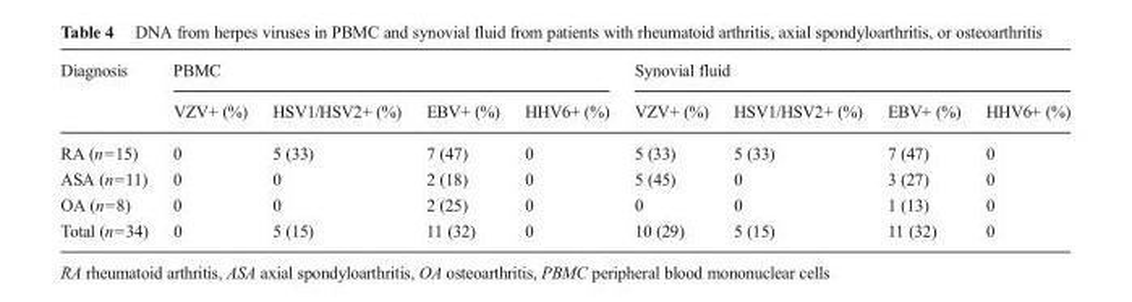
<table><thead><tr><td rowspan="2">Diagnosis</td><td colspan="4">PBMC</td><td colspan="4">Synovial fluid</td></tr><tr><td>VZV+ (%)</td><td>HSV1/HSV2+ (%)</td><td>EBV+ (%)</td><td>HHV6+ (%)</td><td>VZV+ (%)</td><td>HSV1/HSV2+ (%)</td><td>EBV+ (%)</td><td>HHV6+ (%)</td></tr></thead><tbody><tr><td>RA (n=15)</td><td>0</td><td>5 (33)</td><td>7 (47)</td><td>0</td><td>5 (33)</td><td>5 (33)</td><td>7 (47)</td><td>0</td></tr><tr><td>ASA (n=11)</td><td>0</td><td>0</td><td>2 (18)</td><td>0</td><td>5 (45)</td><td>0</td><td>3 (27)</td><td>0</td></tr><tr><td>OA (n=8)</td><td>0</td><td>0</td><td>2 (25)</td><td>0</td><td>0</td><td>0</td><td>1 (13)</td><td>0</td></tr><tr><td>Total (n=34)</td><td>0</td><td>5 (15)</td><td>11 (32)</td><td>0</td><td>10 (29)</td><td>5 (15)</td><td>11 (32)</td><td>0</td></tr></tbody></table>